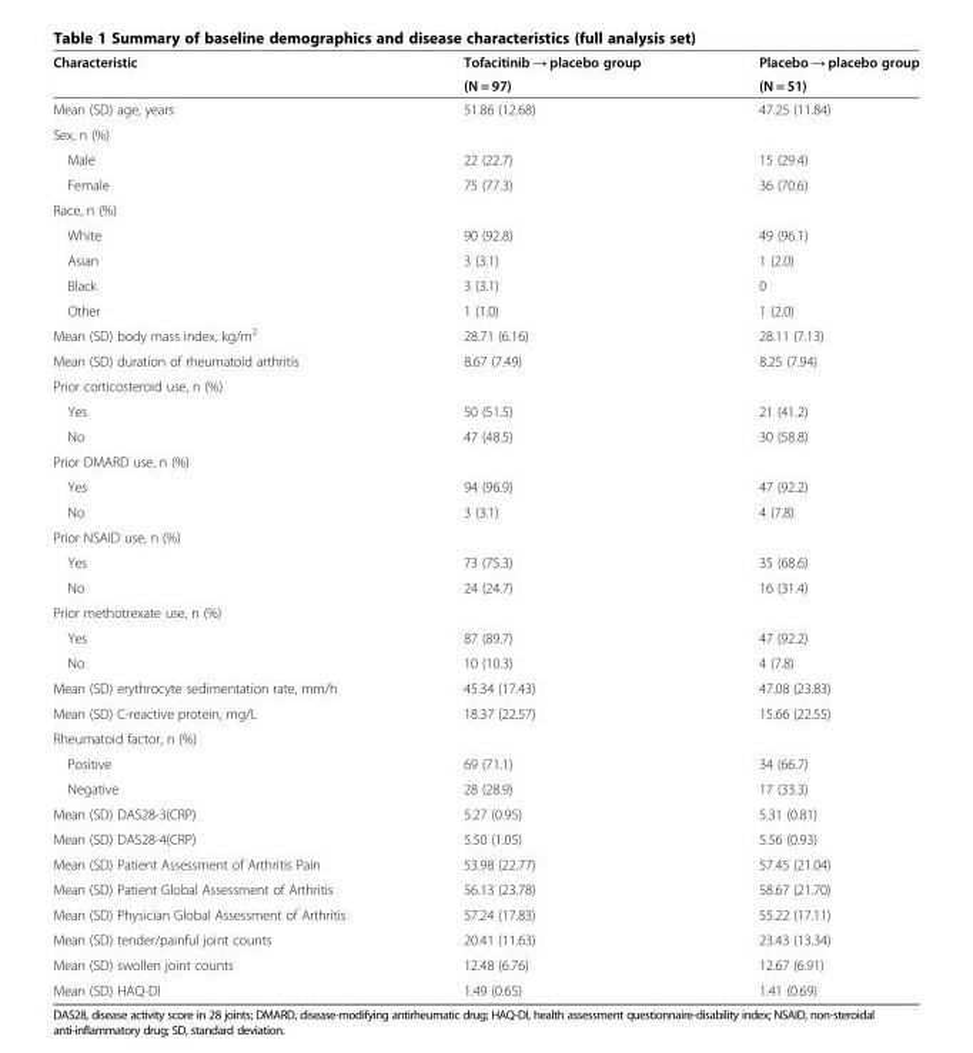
<table><thead><tr><td rowspan="2">Characteristic</td><td rowspan="2">Tofacitinib → placebo group (N = 97)</td><td rowspan="2">Placebo → placebo group (N = 51)</td></tr><tr></tr></thead><tbody><tr><td>Mean (SD) age, years</td><td>51.86 (12.68)</td><td>47.25 (11.84)</td></tr><tr><td colspan="3">Sex, n (%)</td></tr><tr><td>Male</td><td>22 (22.7)</td><td>15 (29.4)</td></tr><tr><td>Female</td><td>75 (77.3)</td><td>36 (70.6)</td></tr><tr><td colspan="3">Race, n (%)</td></tr><tr><td>White</td><td>90 (92.8)</td><td>49 (96.1)</td></tr><tr><td>Asian</td><td>3 (3.1)</td><td>1 (2.0)</td></tr><tr><td>Black</td><td>3 (3.1)</td><td>0</td></tr><tr><td>Other</td><td>1 (1.0)</td><td>1 (2.0)</td></tr><tr><td>Mean (SD) body mass index, kg/m<sup>2</sup></td><td>28.71 (6.16)</td><td>28.11 (7.13)</td></tr><tr><td>Mean (SD) duration of rheumatoid arthritis</td><td>8.67 (7.49)</td><td>8.25 (7.94)</td></tr><tr><td colspan="3">Prior corticosteroid use, n (%)</td></tr><tr><td>Yes</td><td>50 (51.5)</td><td>21 (41.2)</td></tr><tr><td>No</td><td>47 (48.5)</td><td>30 (58.8)</td></tr><tr><td colspan="3">Prior DMARD use, n (%)</td></tr><tr><td>Yes</td><td>94 (96.9)</td><td>47 (92.2)</td></tr><tr><td>No</td><td>3 (3.1)</td><td>4 (7.8)</td></tr><tr><td colspan="3">Prior NSAID use, n (%)</td></tr><tr><td>Yes</td><td>73 (75.3)</td><td>35 (68.6)</td></tr><tr><td>No</td><td>24 (24.7)</td><td>16 (31.4)</td></tr><tr><td colspan="3">Prior methotrexate use, n (%)</td></tr><tr><td>Yes</td><td>87 (89.7)</td><td>47 (92.2)</td></tr><tr><td>No</td><td>10 (10.3)</td><td>4 (7.8)</td></tr><tr><td>Mean (SD) erythrocyte sedimentation rate, mm/h</td><td>45.34 (17.43)</td><td>47.08 (23.83)</td></tr><tr><td>Mean (SD) C-reactive protein, mg/L</td><td>18.37 (22.57)</td><td>15.66 (22.55)</td></tr><tr><td colspan="3">Rheumatoid factor, n (%)</td></tr><tr><td>Positive</td><td>69 (71.1)</td><td>34 (66.7)</td></tr><tr><td>Negative</td><td>28 (28.9)</td><td>17 (33.3)</td></tr><tr><td>Mean (SD) DAS28-3(CRP)</td><td>5.27 (0.95)</td><td>5.31 (0.81)</td></tr><tr><td>Mean (SD) DAS28-4(CRP)</td><td>5.50 (1.05)</td><td>5.56 (0.93)</td></tr><tr><td>Mean (SD) Patient Assessment of Arthritis Pain</td><td>53.98 (22.77)</td><td>57.45 (21.04)</td></tr><tr><td>Mean (SD) Patient Global Assessment of Arthritis</td><td>56.13 (23.78)</td><td>58.67 (21.70)</td></tr><tr><td>Mean (SD) Physician Global Assessment of Arthritis</td><td>57.24 (17.83)</td><td>55.22 (17.11)</td></tr><tr><td>Mean (SD) tender/painful joint counts</td><td>20.41 (11.63)</td><td>23.43 (13.34)</td></tr><tr><td>Mean (SD) swollen joint counts</td><td>12.48 (6.76)</td><td>12.67 (6.91)</td></tr><tr><td>Mean (SD) HAQ-DI</td><td>1.49 (0.65)</td><td>1.41 (0.69)</td></tr></tbody></table>